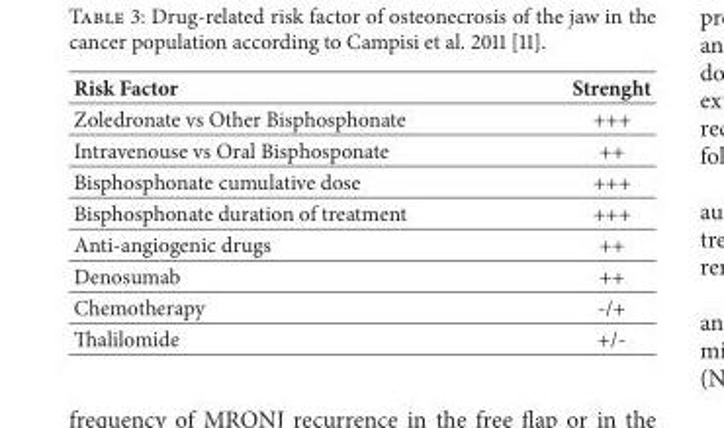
<table><thead><tr><td>Risk Factor</td><td>Strenght</td></tr></thead><tbody><tr><td>Zoledronate vs Other Bisphosphonate</td><td>+++</td></tr><tr><td>Intravenouse vs Oral Bisphosponate</td><td>++</td></tr><tr><td>Bisphosphonate cumulative dose</td><td>+++</td></tr><tr><td>Bisphosphonate duration of treatment</td><td>+++</td></tr><tr><td>Anti-angiogenic drugs</td><td>++</td></tr><tr><td>Denosumab</td><td>++</td></tr><tr><td>Chemotherapy</td><td>-/+</td></tr><tr><td>Thalilomide</td><td>+/-</td></tr></tbody></table>